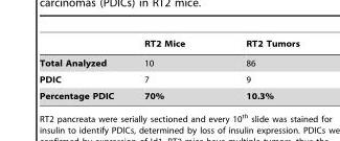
<table><thead><tr><td></td><td>RT2 Mice</td><td>RT2 Tumors</td></tr></thead><tbody><tr><td>Total Analyzed</td><td>10</td><td>86</td></tr><tr><td>PDIC</td><td>7</td><td>9</td></tr><tr><td>Percentage PDIC</td><td>70%</td><td>10.3%</td></tr></tbody></table>